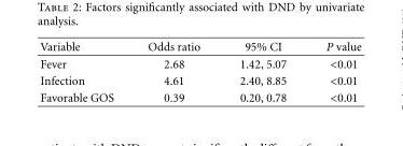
<table><thead><tr><td>Variable</td><td>Odds ratio</td><td>95% CI</td><td>P value</td></tr></thead><tbody><tr><td>Fever</td><td>2.68</td><td>1.42, 5.07</td><td>&lt;0.01</td></tr><tr><td>Infection</td><td>4.61</td><td>2.40, 8.85</td><td>&lt;0.01</td></tr><tr><td>Favorable GOS</td><td>0.39</td><td>0.20, 0.78</td><td>&lt;0.01</td></tr></tbody></table>